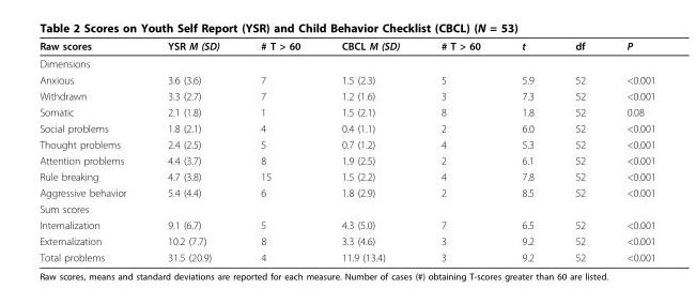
<table><thead><tr><td>Raw scores</td><td>YSR M (SD)</td><td># T &gt; 60</td><td>CBCL M (SD)</td><td># T &gt; 60</td><td>t</td><td>df</td><td>P</td></tr></thead><tbody><tr><td colspan="8">Dimensions</td></tr><tr><td>Anxious</td><td>3.6 (3.6)</td><td>7</td><td>1.5 (2.3)</td><td>5</td><td>5.9</td><td>52</td><td>&lt;0.001</td></tr><tr><td>Withdrawn</td><td>3.3 (2.7)</td><td>7</td><td>1.2 (1.6)</td><td>3</td><td>7.3</td><td>52</td><td>&lt;0.001</td></tr><tr><td>Somatic</td><td>2.1 (1.8)</td><td>1</td><td>1.5 (2.1)</td><td>8</td><td>1.8</td><td>52</td><td>0.08</td></tr><tr><td>Social problems</td><td>1.8 (2.1)</td><td>4</td><td>0.4 (1.1)</td><td>2</td><td>6.0</td><td>52</td><td>&lt;0.001</td></tr><tr><td>Thought problems</td><td>2.4 (2.5)</td><td>5</td><td>0.7 (1.2)</td><td>4</td><td>5.3</td><td>52</td><td>&lt;0.001</td></tr><tr><td>Attention problems</td><td>4.4 (3.7)</td><td>8</td><td>1.9 (2.5)</td><td>2</td><td>6.1</td><td>52</td><td>&lt;0.001</td></tr><tr><td>Rule breaking</td><td>4.7 (3.8)</td><td>15</td><td>1.5 (2.2)</td><td>4</td><td>7.8</td><td>52</td><td>&lt;0.001</td></tr><tr><td>Aggressive behavior</td><td>5.4 (4.4)</td><td>6</td><td>1.8 (2.9)</td><td>2</td><td>8.5</td><td>52</td><td>&lt;0.001</td></tr><tr><td colspan="8">Sum scores</td></tr><tr><td>Internalization</td><td>9.1 (6.7)</td><td>5</td><td>4.3 (5.0)</td><td>7</td><td>6.5</td><td>52</td><td>&lt;0.001</td></tr><tr><td>Externalization</td><td>10.2 (7.7)</td><td>8</td><td>3.3 (4.6)</td><td>3</td><td>9.2</td><td>52</td><td>&lt;0.001</td></tr><tr><td>Total problems</td><td>31.5 (20.9)</td><td>4</td><td>11.9 (13.4)</td><td>3</td><td>9.2</td><td>52</td><td>&lt;0.001</td></tr></tbody></table>